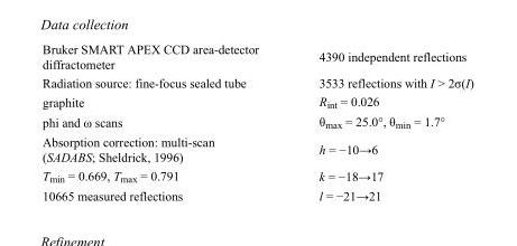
<table><tbody><tr><td>Bruker SMART APEX CCD area-detector diffractometer</td><td>4390 independent reflections</td></tr><tr><td>Radiation source: fine-focus sealed tube</td><td>3533 reflections with I &gt; 2σ(I)</td></tr><tr><td>graphite</td><td>R<sub>int</sub> = 0.026</td></tr><tr><td>phi and ω scans</td><td>θ<sub>max</sub> = 25.0°, θ<sub>min</sub> = 1.7°</td></tr><tr><td>Absorption correction: multi-scan (SADABS; Sheldrick, 1996)</td><td>h = −10→6</td></tr><tr><td>T<sub>min</sub> = 0.669, T<sub>max</sub> = 0.791</td><td>k = −18→17</td></tr><tr><td>10665 measured reflections</td><td>l = −21→21</td></tr></tbody></table>